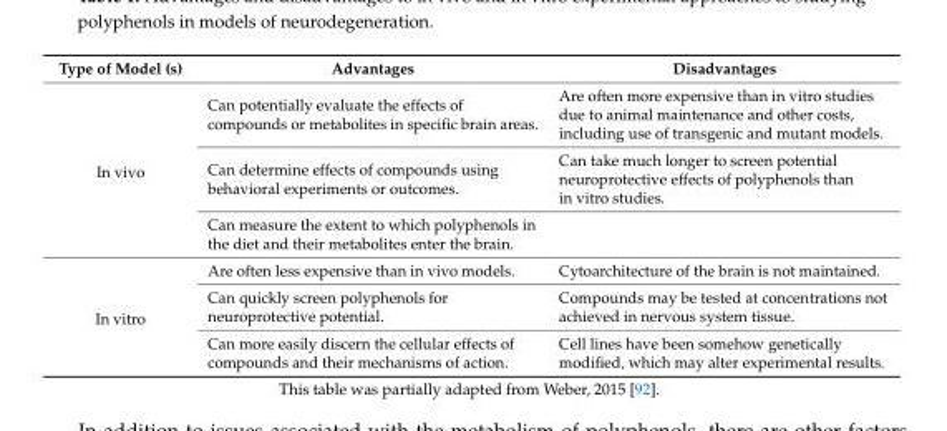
<table><thead><tr><td>Type of Model (s)</td><td>Advantages</td><td>Disadvantages</td></tr></thead><tbody><tr><td rowspan="3">In vivo</td><td>Can potentially evaluate the effects of compounds or metabolites in specific brain areas.</td><td>Are often more expensive than in vitro studies due to animal maintenance and other costs, including use of transgenic and mutant models.</td></tr><tr><td>Can determine effects of compounds using behavioral experiments or outcomes.</td><td>Can take much longer to screen potential neuroprotective effects of polyphenols than in vitro studies.</td></tr><tr><td>Can measure the extent to which polyphenols in the diet and their metabolites enter the brain.</td><td></td></tr><tr><td rowspan="3">In vitro</td><td>Are often less expensive than in vivo models.</td><td>Cytoarchitecture of the brain is not maintained.</td></tr><tr><td>Can quickly screen polyphenols for neuroprotective potential.</td><td>Compounds may be tested at concentrations not achieved in nervous system tissue.</td></tr><tr><td>Can more easily discern the cellular effects of compounds and their mechanisms of action.</td><td>Cell lines have been somehow genetically modified, which may alter experimental results.</td></tr></tbody></table>